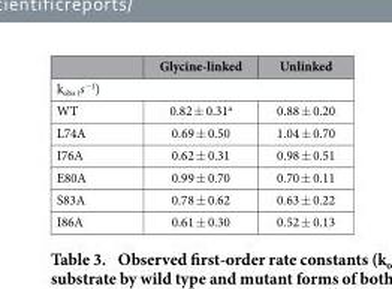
<table><thead><tr><td></td><td>Glycine-linked</td><td>Unlinked</td></tr></thead><tbody><tr><td colspan="3">k<sub>obs (</sub>s<sup>−1</sup>)</td></tr><tr><td>WT</td><td>0.82 ± 0.31<sup>a</sup></td><td>0.88 ± 0.20</td></tr><tr><td>L74A</td><td>0.69 ± 0.50</td><td>1.04 ± 0.70</td></tr><tr><td>I76A</td><td>0.62 ± 0.31</td><td>0.98 ± 0.51</td></tr><tr><td>E80A</td><td>0.99 ± 0.70</td><td>0.70 ± 0.11</td></tr><tr><td>S83A</td><td>0.78 ± 0.62</td><td>0.63 ± 0.22</td></tr><tr><td>I86A</td><td>0.61 ± 0.30</td><td>0.52 ± 0.13</td></tr></tbody></table>